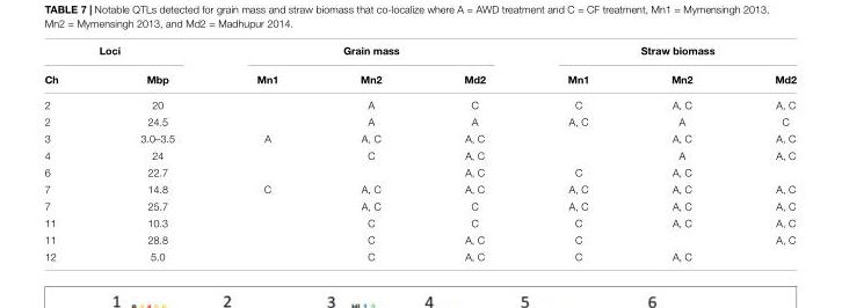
<table><thead><tr><td colspan="2">Loci</td><td colspan="3">Grain mass</td><td colspan="3">Straw biomass</td></tr><tr><td>Ch</td><td>Mbp</td><td>Mn1</td><td>Mn2</td><td>Md2</td><td>Mn1</td><td>Mn2</td><td>Md2</td></tr></thead><tbody><tr><td>2</td><td>20</td><td></td><td>A</td><td>C</td><td>C</td><td>A, C</td><td>A, C</td></tr><tr><td>2</td><td>24.5</td><td></td><td>A</td><td>A</td><td>A, C</td><td>A</td><td>C</td></tr><tr><td>3</td><td>3.0–3.5</td><td>A</td><td>A, C</td><td>A, C</td><td></td><td>A, C</td><td>A, C</td></tr><tr><td>4</td><td>24</td><td></td><td>C</td><td>A, C</td><td></td><td>A</td><td>A, C</td></tr><tr><td>6</td><td>22.7</td><td></td><td></td><td>A, C</td><td>C</td><td>A, C</td><td></td></tr><tr><td>7</td><td>14.8</td><td>C</td><td>A, C</td><td>A, C</td><td>A, C</td><td>A, C</td><td>A, C</td></tr><tr><td>7</td><td>25.7</td><td></td><td>A, C</td><td>C</td><td>A, C</td><td>A, C</td><td>A, C</td></tr><tr><td>11</td><td>10.3</td><td></td><td>C</td><td>C</td><td>C</td><td>A, C</td><td>A, C</td></tr><tr><td>11</td><td>28.8</td><td></td><td>C</td><td>A, C</td><td>C</td><td></td><td>A, C</td></tr><tr><td>12</td><td>5.0</td><td></td><td>C</td><td>A, C</td><td>C</td><td>A, C</td><td></td></tr></tbody></table>